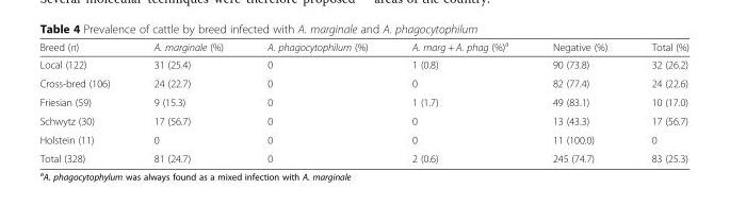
<table><thead><tr><td>Breed (n)</td><td>A. marginale (%)</td><td>A. phagocytophilum (%)</td><td>A. marg + A. phag (%)<sup>a</sup></td><td>Negative (%)</td><td>Total (%)</td></tr></thead><tbody><tr><td>Local (122)</td><td>31 (25.4)</td><td>0</td><td>1 (0.8)</td><td>90 (73.8)</td><td>32 (26.2)</td></tr><tr><td>Cross-bred (106)</td><td>24 (22.7)</td><td>0</td><td>0</td><td>82 (77.4)</td><td>24 (22.6)</td></tr><tr><td>Friesian (59)</td><td>9 (15.3)</td><td>0</td><td>1 (1.7)</td><td>49 (83.1)</td><td>10 (17.0)</td></tr><tr><td>Schwytz (30)</td><td>17 (56.7)</td><td>0</td><td>0</td><td>13 (43.3)</td><td>17 (56.7)</td></tr><tr><td>Holstein (11)</td><td>0</td><td>0</td><td>0</td><td>11 (100.0)</td><td>0</td></tr><tr><td>Total (328)</td><td>81 (24.7)</td><td>0</td><td>2 (0.6)</td><td>245 (74.7)</td><td>83 (25.3)</td></tr></tbody></table>